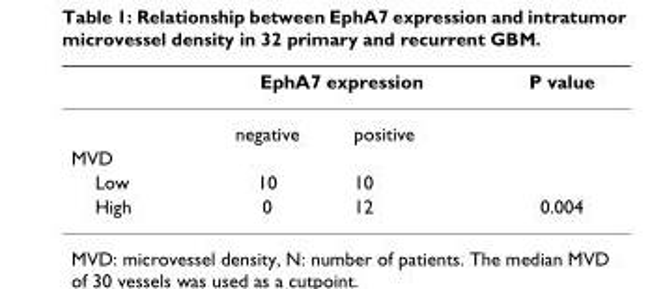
<table><thead><tr><td rowspan="2"></td><td colspan="2">EphA7 expression</td><td rowspan="2">P value</td></tr><tr><td>negative</td><td>positive</td></tr></thead><tbody><tr><td colspan="4">MVD</td></tr><tr><td>Low</td><td>10</td><td>10</td><td></td></tr><tr><td>High</td><td>0</td><td>12</td><td>0.004</td></tr></tbody></table>